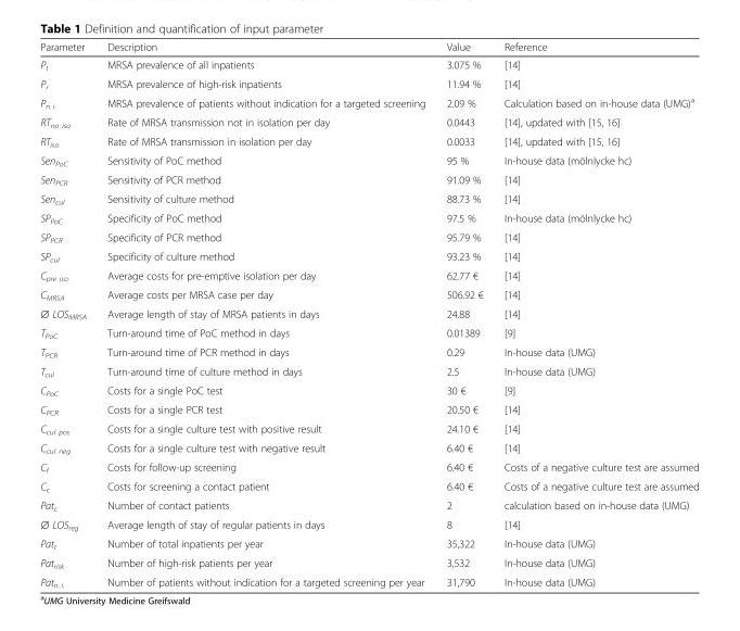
<table><thead><tr><td>Parameter</td><td>Description</td><td>Value</td><td>Reference</td></tr></thead><tbody><tr><td>P<sub>t</sub></td><td>MRSA prevalence of all inpatients</td><td>3.075 %</td><td>[14]</td></tr><tr><td>P<sub>r</sub></td><td>MRSA prevalence of high-risk inpatients</td><td>11.94 %</td><td>[14]</td></tr><tr><td>P<sub>n. i.</sub></td><td>MRSA prevalence of patients without indication for a targeted screening</td><td>2.09 %</td><td>Calculation based on in-house data (UMG)<sup>a</sup></td></tr><tr><td>RT<sub>no iso</sub></td><td>Rate of MRSA transmission not in isolation per day</td><td>0.0443</td><td>[14], updated with [15, 16]</td></tr><tr><td>RT<sub>iso</sub></td><td>Rate of MRSA transmission in isolation per day</td><td>0.0033</td><td>[14], updated with [15, 16]</td></tr><tr><td>Sen<sub>PoC</sub></td><td>Sensitivity of PoC method</td><td>95 %</td><td>In-house data (mölnlycke hc)</td></tr><tr><td>Sen<sub>PCR</sub></td><td>Sensitivity of PCR method</td><td>91.09 %</td><td>[14]</td></tr><tr><td>Sen<sub>cul</sub></td><td>Sensitivity of culture method</td><td>88.73 %</td><td>[14]</td></tr><tr><td>SP<sub>PoC</sub></td><td>Specificity of PoC method</td><td>97.5 %</td><td>In-house data (mölnlycke hc)</td></tr><tr><td>SP<sub>PCR</sub></td><td>Specificity of PCR method</td><td>95.79 %</td><td>[14]</td></tr><tr><td>SP<sub>cul</sub></td><td>Specificity of culture method</td><td>93.23 %</td><td>[14]</td></tr><tr><td>C<sub>pre iso</sub></td><td>Average costs for pre-emptive isolation per day</td><td>62.77 €</td><td>[14]</td></tr><tr><td>C<sub>MRSA</sub></td><td>Average costs per MRSA case per day</td><td>506.92 €</td><td>[14]</td></tr><tr><td>∅ LOS<sub>MRSA</sub></td><td>Average length of stay of MRSA patients in days</td><td>24.88</td><td>[14]</td></tr><tr><td>T<sub>PoC</sub></td><td>Turn-around time of PoC method in days</td><td>0.01389</td><td>[9]</td></tr><tr><td>T<sub>PCR</sub></td><td>Turn-around time of PCR method in days</td><td>0.29</td><td>In-house data (UMG)</td></tr><tr><td>T<sub>cul</sub></td><td>Turn-around time of culture method in days</td><td>2.5</td><td>In-house data (UMG)</td></tr><tr><td>C<sub>PoC</sub></td><td>Costs for a single PoC test</td><td>30 €</td><td>[9]</td></tr><tr><td>C<sub>PCR</sub></td><td>Costs for a single PCR test</td><td>20.50 €</td><td>[14]</td></tr><tr><td>C<sub>cul pos</sub></td><td>Costs for a single culture test with positive result</td><td>24.10 €</td><td>[14]</td></tr><tr><td>C<sub>cul neg</sub></td><td>Costs for a single culture test with negative result</td><td>6.40 €</td><td>[14]</td></tr><tr><td>C<sub>f</sub></td><td>Costs for follow-up screening</td><td>6.40 €</td><td>Costs of a negative culture test are assumed</td></tr><tr><td>C<sub>c</sub></td><td>Costs for screening a contact patient</td><td>6.40 €</td><td>Costs of a negative culture test are assumed</td></tr><tr><td>Pat<sub>c</sub></td><td>Number of contact patients</td><td>2</td><td>calculation based on in-house data (UMG)</td></tr><tr><td>∅ LOS<sub>reg</sub></td><td>Average length of stay of regular patients in days</td><td>8</td><td>[14]</td></tr><tr><td>Pat<sub>t</sub></td><td>Number of total inpatients per year</td><td>35,322</td><td>In-house data (UMG)</td></tr><tr><td>Pat<sub>risk</sub></td><td>Number of high-risk patients per year</td><td>3,532</td><td>In-house data (UMG)</td></tr><tr><td>Pat<sub>n. i.</sub></td><td>Number of patients without indication for a targeted screening per year</td><td>31,790</td><td>In-house data (UMG)</td></tr></tbody></table>